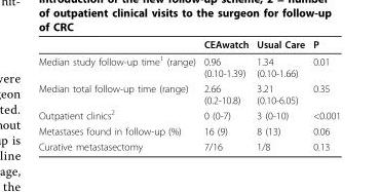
<table><thead><tr><td></td><td>CEAwatch</td><td>Usual Care</td><td>P</td></tr></thead><tbody><tr><td>Median study follow-up time<sup>1</sup> (range)</td><td>0.96 (0.10-1.39)</td><td>1.34 (0.10-1.66)</td><td>0.01</td></tr><tr><td>Median total follow-up time (range)</td><td>2.66 (0.2-10.8)</td><td>3.21 (0.10-6.05)</td><td>0.35</td></tr><tr><td>Outpatient clinics<sup>2</sup></td><td>0 (0-7)</td><td>3 (0-10)</td><td>&lt;0.001</td></tr><tr><td>Metastases found in follow-up (%)</td><td>16 (9)</td><td>8 (13)</td><td>0.06</td></tr><tr><td>Curative metastasectomy</td><td>7/16</td><td>1/8</td><td>0.13</td></tr></tbody></table>